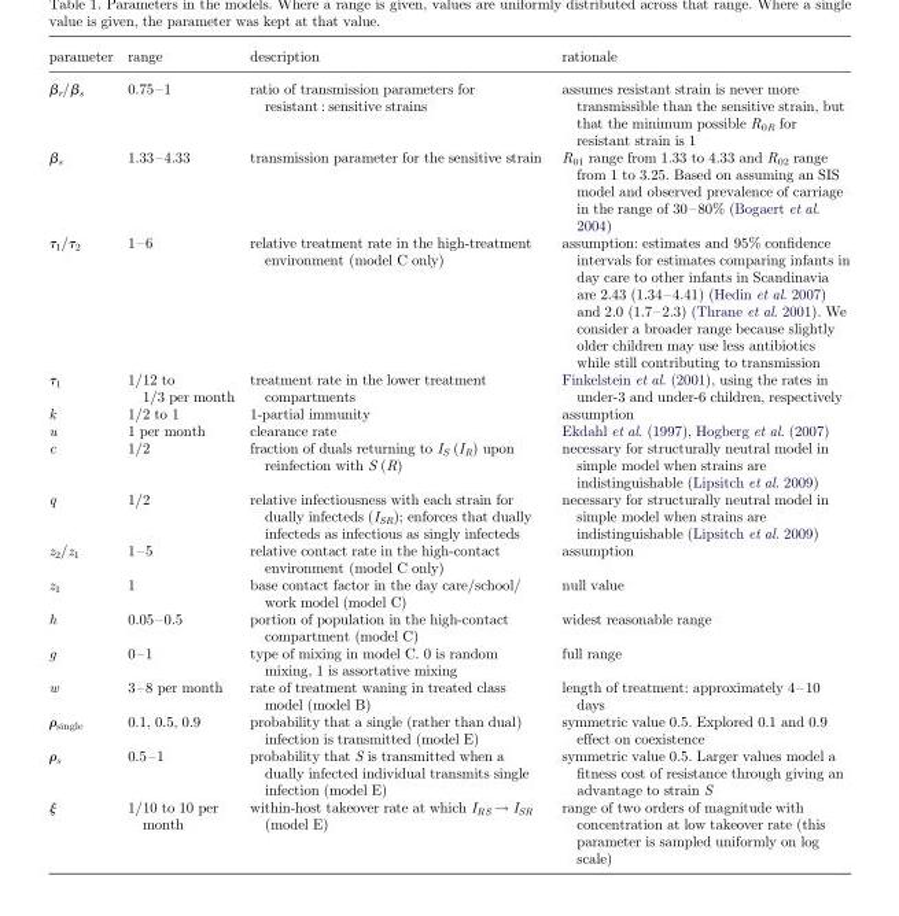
<table><thead><tr><td>parameter</td><td>range</td><td>description</td><td>rationale</td></tr></thead><tbody><tr><td>β<sub>r</sub>/β<sub>s</sub></td><td>0.75–1</td><td>ratio of transmission parameters for resistant : sensitive strains</td><td>assumes resistant strain is never more transmissible than the sensitive strain, but that the minimum possible R<sub>0R</sub> for resistant strain is 1</td></tr><tr><td>β<sub>s</sub></td><td>1.33–4.33</td><td>transmission parameter for the sensitive strain</td><td>R<sub>01</sub> range from 1.33 to 4.33 and R<sub>02</sub> range from 1 to 3.25. Based on assuming an SIS model and observed prevalence of carriage in the range of 30–80% (Bogaert et al. 2004)</td></tr><tr><td>τ<sub>1</sub>/τ<sub>2</sub></td><td>1–6</td><td>relative treatment rate in the high-treatment environment (model C only)</td><td>assumption: estimates and 95% confidence intervals for estimates comparing infants in day care to other infants in Scandinavia are 2.43 (1.34–4.41) (Hedin et al. 2007) and 2.0 (1.7–2.3) (Thrane et al. 2001). We consider a broader range because slightly older children may use less antibiotics while still contributing to transmission</td></tr><tr><td>τ<sub>1</sub></td><td>1/12 to 1/3 per month</td><td>treatment rate in the lower treatment compartments</td><td>Finkelstein et al. (2001), using the rates in under-3 and under-6 children, respectively</td></tr><tr><td>k</td><td>1/2 to 1</td><td>1-partial immunity</td><td>assumption</td></tr><tr><td>u</td><td>1 per month</td><td>clearance rate</td><td>Ekdahl et al. (1997), Hogberg et al. (2007)</td></tr><tr><td>c</td><td>1/2</td><td>fraction of duals returning to I<sub>S</sub> (I<sub>R</sub>) upon reinfection with S (R)</td><td>necessary for structurally neutral model in simple model when strains are indistinguishable (Lipsitch et al. 2009)</td></tr><tr><td>q</td><td>1/2</td><td>relative infectiousness with each strain for dually infecteds (I<sub>SR</sub>); enforces that dually infecteds as infectious as singly infecteds</td><td>necessary for structurally neutral model in simple model when strains are indistinguishable (Lipsitch et al. 2009)</td></tr><tr><td>z<sub>2</sub>/z<sub>1</sub></td><td>1–5</td><td>relative contact rate in the high-contact environment (model C only)</td><td>assumption</td></tr><tr><td>z<sub>1</sub></td><td>1</td><td>base contact factor in the day care/school/ work model (model C)</td><td>null value</td></tr><tr><td>h</td><td>0.05–0.5</td><td>portion of population in the high-contact compartment (model C)</td><td>widest reasonable range</td></tr><tr><td>g</td><td>0–1</td><td>type of mixing in model C. 0 is random mixing, 1 is assortative mixing</td><td>full range</td></tr><tr><td>w</td><td>3–8 per month</td><td>rate of treatment waning in treated class model (model B)</td><td>length of treatment: approximately 4–10 days</td></tr><tr><td>ρ<sub>single</sub></td><td>0.1, 0.5, 0.9</td><td>probability that a single (rather than dual) infection is transmitted (model E)</td><td>symmetric value 0.5. Explored 0.1 and 0.9 effect on coexistence</td></tr><tr><td>ρ<sub>s</sub></td><td>0.5–1</td><td>probability that S is transmitted when a dually infected individual transmits single infection (model E)</td><td>symmetric value 0.5. Larger values model a fitness cost of resistance through giving an advantage to strain S</td></tr><tr><td>ξ</td><td>1/10 to 10 per month</td><td>within-host takeover rate at which I<sub>RS</sub> → I<sub>SR</sub> (model E)</td><td>range of two orders of magnitude with concentration at low takeover rate (this parameter is sampled uniformly on log scale)</td></tr></tbody></table>